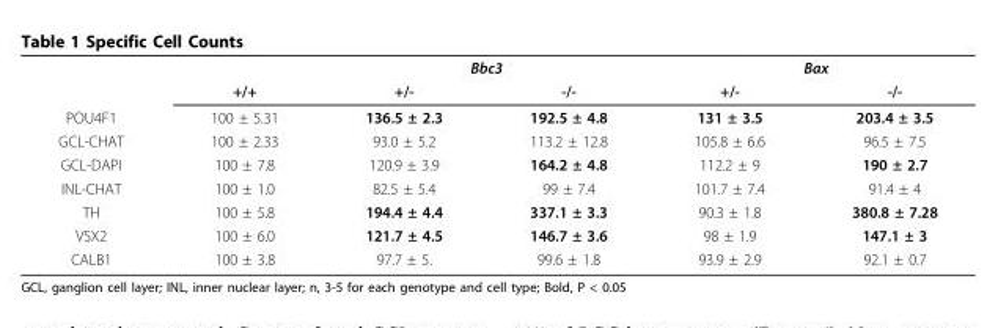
<table><thead><tr><td rowspan="2"></td><td rowspan="2">+/+</td><td colspan="2">Bbc3</td><td colspan="2">Bax</td></tr><tr><td>+/-</td><td>-/-</td><td>+/-</td><td>-/-</td></tr></thead><tbody><tr><td>POU4F1</td><td>100 ± 5.31</td><td>136.5 ± 2.3</td><td>192.5 ± 4.8</td><td>131 ± 3.5</td><td>203.4 ± 3.5</td></tr><tr><td>GCL-CHAT</td><td>100 ± 2.33</td><td>93.0 ± 5.2</td><td>113.2 ± 12.8</td><td>105.8 ± 6.6</td><td>96.5 ± 7.5</td></tr><tr><td>GCL-DAPI</td><td>100 ± 7.8</td><td>120.9 ± 3.9</td><td>164.2 ± 4.8</td><td>112.2 ± 9</td><td>190 ± 2.7</td></tr><tr><td>INL-CHAT</td><td>100 ± 1.0</td><td>82.5 ± 5.4</td><td>99 ± 7.4</td><td>101.7 ± 7.4</td><td>91.4 ± 4</td></tr><tr><td>TH</td><td>100 ± 5.8</td><td>194.4 ± 4.4</td><td>337.1 ± 3.3</td><td>90.3 ± 1.8</td><td>380.8 ± 7.28</td></tr><tr><td>VSX2</td><td>100 ± 6.0</td><td>121.7 ± 4.5</td><td>146.7 ± 3.6</td><td>98 ± 1.9</td><td>147.1 ± 3</td></tr><tr><td>CALB1</td><td>100 ± 3.8</td><td>97.7 ± 5.</td><td>99.6 ± 1.8</td><td>93.9 ± 2.9</td><td>92.1 ± 0.7</td></tr></tbody></table>